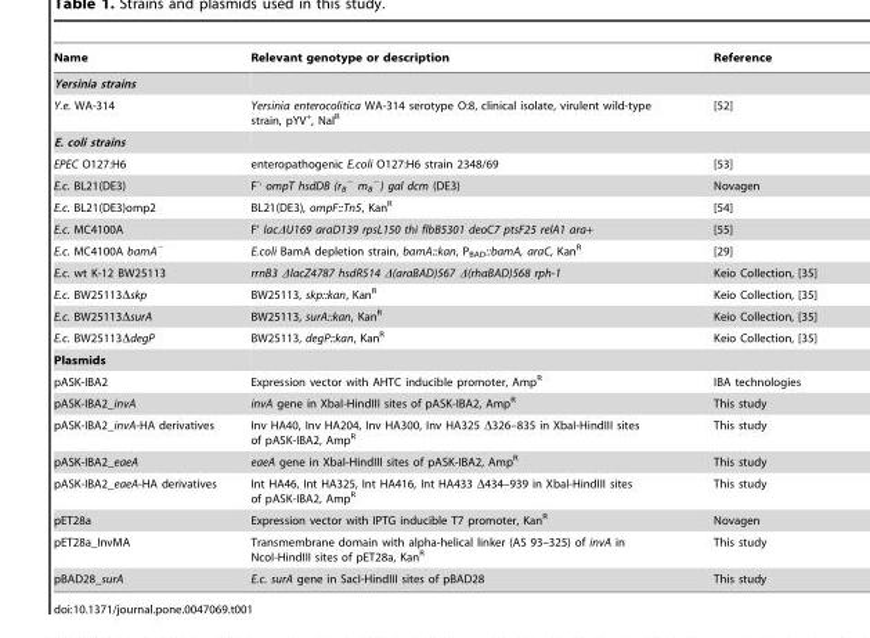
<table><thead><tr><td>Name</td><td>Relevant genotype or description</td><td>Reference</td></tr></thead><tbody><tr><td colspan="3">Yersinia strains</td></tr><tr><td>Y.e. WA-314</td><td>Yersinia enterocolitica WA-314 serotype O:8, clinical isolate, virulent wild-type strain, pYV<sup>+</sup>, Nal<sup>R</sup></td><td>[52]</td></tr><tr><td colspan="3">E. coli strains</td></tr><tr><td>EPEC O127:H6</td><td>enteropathogenic E.coli O127:H6 strain 2348/69</td><td>[53]</td></tr><tr><td>E.c. BL21(DE3)</td><td>F<sup>-,</sup> ompT hsdDB (r<sub>B</sub> <sup>−</sup> m<sub>B</sub> <sup>−</sup>) gal dcm (DE3)</td><td>Novagen</td></tr><tr><td>E.c. BL21(DE3)omp2</td><td>BL21(DE3), ompF::Tn5, Kan<sup>R</sup></td><td>[54]</td></tr><tr><td>E.c. MC4100A</td><td>F’ lacΔU169 araD139 rpsL150 thi flbB5301 deoC7 ptsF25 relA1 ara+</td><td>[55]</td></tr><tr><td>E.c. MC4100A bamA<sup>−</sup></td><td>E.coli BamA depletion strain, bamA::kan, P<sub>BAD</sub>::bamA, araC, Kan<sup>R</sup></td><td>[29]</td></tr><tr><td>E.c. wt K-12 BW25113</td><td>rrnB3 ΔlacZ4787 hsdR514 Δ(araBAD)567 Δ(rhaBAD)568 rph-1</td><td>Keio Collection, [35]</td></tr><tr><td>E.c. BW25113Δskp</td><td>BW25113, skp::kan, Kan<sup>R</sup></td><td>Keio Collection, [35]</td></tr><tr><td>E.c. BW25113ΔsurA</td><td>BW25113, surA::kan, Kan<sup>R</sup></td><td>Keio Collection, [35]</td></tr><tr><td>E.c. BW25113ΔdegP</td><td>BW25113, degP::kan, Kan<sup>R</sup></td><td>Keio Collection, [35]</td></tr><tr><td colspan="3">Plasmids</td></tr><tr><td>pASK-IBA2</td><td>Expression vector with AHTC inducible promoter, Amp<sup>R</sup></td><td>IBA technologies</td></tr><tr><td>pASK-IBA2_invA</td><td>invA gene in XbaI-HindIII sites of pASK-IBA2, Amp<sup>R</sup></td><td>This study</td></tr><tr><td>pASK-IBA2_invA-HA derivatives</td><td>Inv HA40, Inv HA204, Inv HA300, Inv HA325 Δ326–835 in XbaI-HindIII sites of pASK-IBA2, Amp<sup>R</sup></td><td>This study</td></tr><tr><td>pASK-IBA2_eaeA</td><td>eaeA gene in XbaI-HindIII sites of pASK-IBA2, Amp<sup>R</sup></td><td>This study</td></tr><tr><td>pASK-IBA2_eaeA-HA derivatives</td><td>Int HA46, Int HA325, Int HA416, Int HA433 Δ434–939 in XbaI-HindIII sites of pASK-IBA2, Amp<sup>R</sup></td><td>This study</td></tr><tr><td>pET28a</td><td>Expression vector with IPTG inducible T7 promoter, Kan<sup>R</sup></td><td>Novagen</td></tr><tr><td>pET28a_InvMA</td><td>Transmembrane domain with alpha-helical linker (AS 93–325) of invA in NcoI-HindIII sites of pET28a, Kan<sup>R</sup></td><td>This study</td></tr><tr><td>pBAD28_surA</td><td>E.c. surA gene in SacI-HindIII sites of pBAD28</td><td>This study</td></tr></tbody></table>